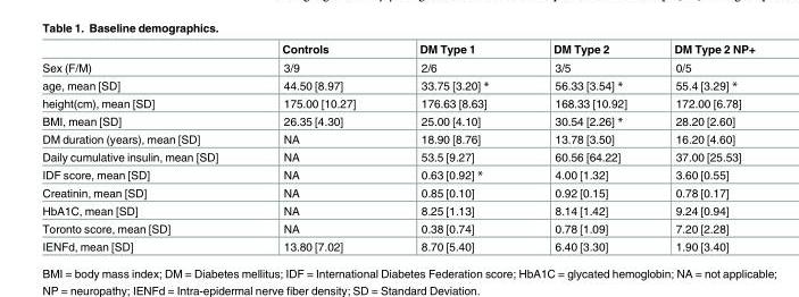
<table><thead><tr><td></td><td>Controls</td><td>DM Type 1</td><td>DM Type 2</td><td>DM Type 2 NP+</td></tr></thead><tbody><tr><td>Sex (F/M)</td><td>3/9</td><td>2/6</td><td>3/5</td><td>0/5</td></tr><tr><td>age, mean [SD]</td><td>44.50 [8.97]</td><td>33.75 [3.20] *</td><td>56.33 [3.54] *</td><td>55.4 [3.29] *</td></tr><tr><td>height(cm), mean [SD]</td><td>175.00 [10.27]</td><td>176.63 [8.63]</td><td>168.33 [10.92]</td><td>172.00 [6.78]</td></tr><tr><td>BMI, mean [SD]</td><td>26.35 [4.30]</td><td>25.00 [4.10]</td><td>30.54 [2.26] *</td><td>28.20 [2.60]</td></tr><tr><td>DM duration (years), mean [SD]</td><td>NA</td><td>18.90 [8.76]</td><td>13.78 [3.50]</td><td>16.20 [4.60]</td></tr><tr><td>Daily cumulative insulin, mean [SD]</td><td>NA</td><td>53.5 [9.27]</td><td>60.56 [64.22]</td><td>37.00 [25.53]</td></tr><tr><td>IDF score, mean [SD]</td><td>NA</td><td>0.63 [0.92] *</td><td>4.00 [1.32]</td><td>3.60 [0.55]</td></tr><tr><td>Creatinin, mean [SD]</td><td>NA</td><td>0.85 [0.10]</td><td>0.92 [0.15]</td><td>0.78 [0.17]</td></tr><tr><td>HbA1C, mean [SD]</td><td>NA</td><td>8.25 [1.13]</td><td>8.14 [1.42]</td><td>9.24 [0.94]</td></tr><tr><td>Toronto score, mean [SD]</td><td>NA</td><td>0.38 [0.74]</td><td>0.78 [1.09]</td><td>7.20 [2.28]</td></tr><tr><td>IENFd, mean [SD]</td><td>13.80 [7.02]</td><td>8.70 [5.40]</td><td>6.40 [3.30]</td><td>1.90 [3.40]</td></tr></tbody></table>